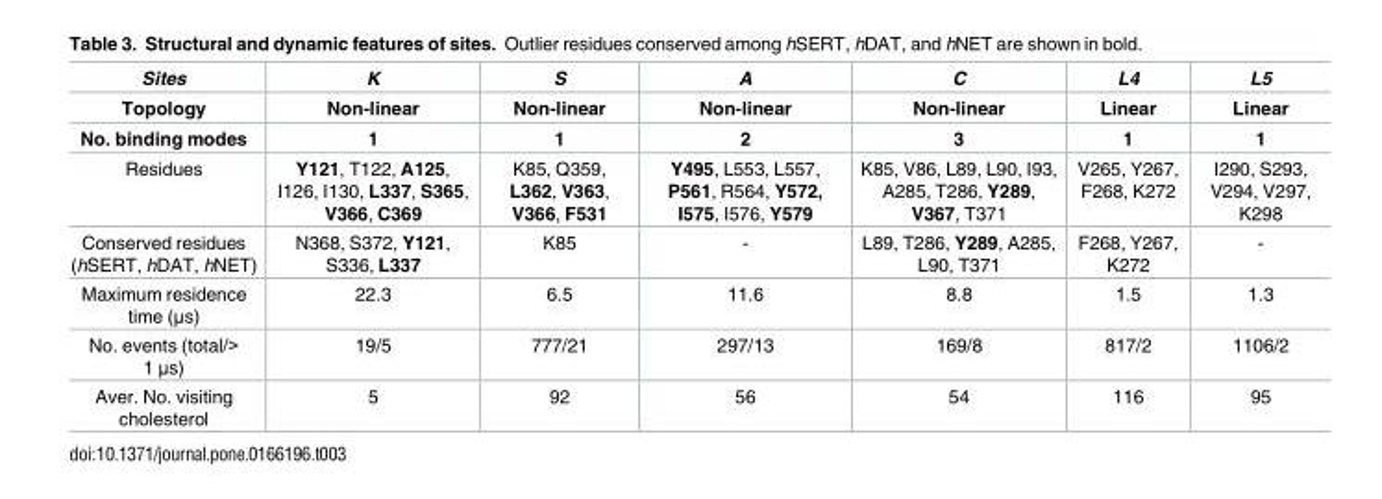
<table><thead><tr><td rowspan="3">Sites Topology No. binding modes</td><td rowspan="3">K Non-linear 1</td><td rowspan="3">S Non-linear 1</td><td rowspan="3">A Non-linear 2</td><td rowspan="3">C Non-linear 3</td><td rowspan="3">L4 Linear 1</td><td rowspan="3">L5 Linear 1</td></tr><tr></tr><tr></tr></thead><tbody><tr><td>Residues</td><td>Y121, T122, A125, I126, I130, L337, S365, V366, C369</td><td>K85, Q359, L362, V363, V366, F531</td><td>Y495, L553, L557, P561, R564, Y572, I575, I576, Y579</td><td>K85, V86, L89, L90, I93, A285, T286, Y289, V367, T371</td><td>V265, Y267, F268, K272</td><td>I290, S293, V294, V297, K298</td></tr><tr><td>Conserved residues (hSERT, hDAT, hNET)</td><td>N368, S372, Y121, S336, L337</td><td>K85</td><td>-</td><td>L89, T286, Y289, A285, L90, T371</td><td>F268, Y267, K272</td><td>-</td></tr><tr><td>Maximum residence time (μs)</td><td>22.3</td><td>6.5</td><td>11.6</td><td>8.8</td><td>1.5</td><td>1.3</td></tr><tr><td>No. events (total/&gt; 1 μs)</td><td>19/5</td><td>777/21</td><td>297/13</td><td>169/8</td><td>817/2</td><td>1106/2</td></tr><tr><td>Aver. No. visiting cholesterol</td><td>5</td><td>92</td><td>56</td><td>54</td><td>116</td><td>95</td></tr></tbody></table>